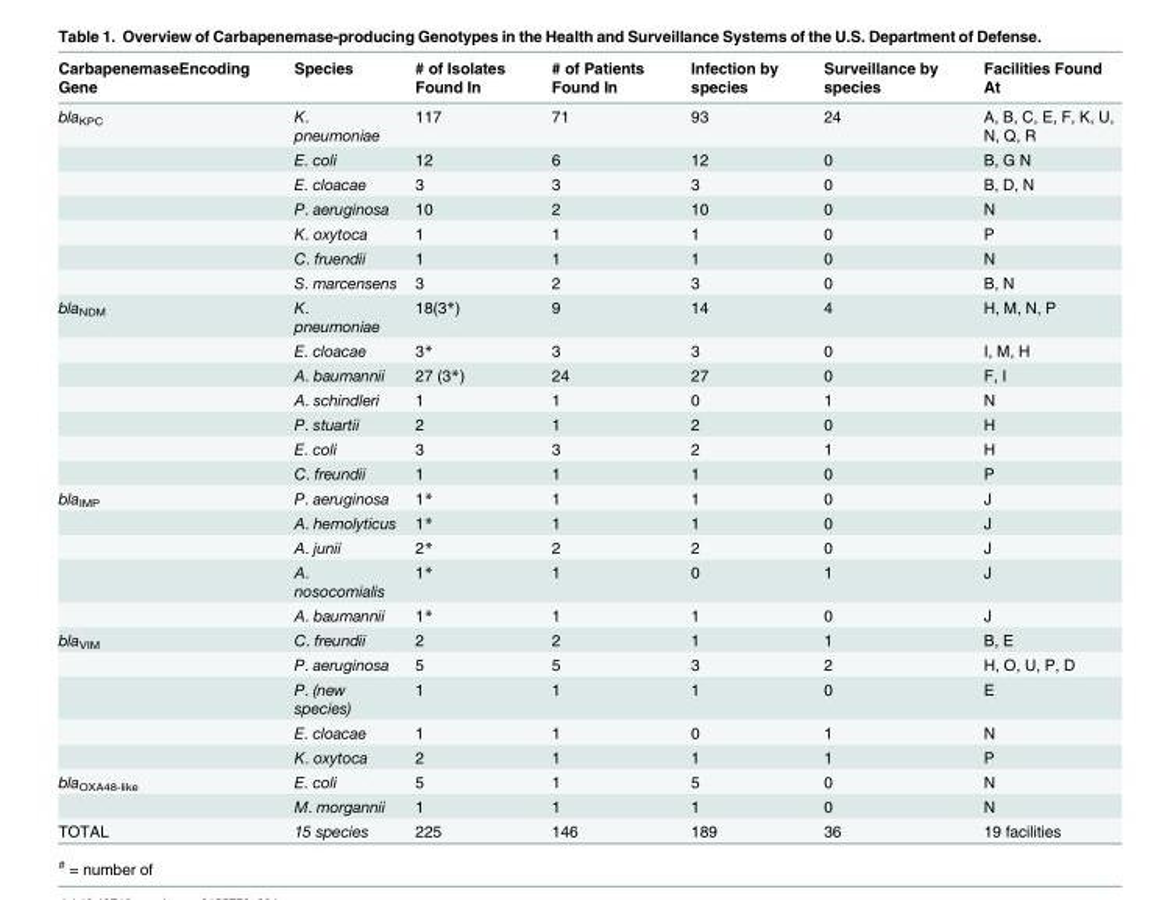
<table><thead><tr><td>CarbapenemaseEncoding Gene</td><td>Species</td><td># of Isolates Found In</td><td># of Patients Found In</td><td>Infection by species</td><td>Surveillance by species</td><td>Facilities Found At</td></tr></thead><tbody><tr><td rowspan="7">bla<sub>KPC</sub></td><td>K. pneumoniae</td><td>117</td><td>71</td><td>93</td><td>24</td><td>A, B, C, E, F, K, U, N, Q, R</td></tr><tr><td>E. coli</td><td>12</td><td>6</td><td>12</td><td>0</td><td>B, G N</td></tr><tr><td>E. cloacae</td><td>3</td><td>3</td><td>3</td><td>0</td><td>B, D, N</td></tr><tr><td>P. aeruginosa</td><td>10</td><td>2</td><td>10</td><td>0</td><td>N</td></tr><tr><td>K. oxytoca</td><td>1</td><td>1</td><td>1</td><td>0</td><td>P</td></tr><tr><td>C. fruendii</td><td>1</td><td>1</td><td>1</td><td>0</td><td>N</td></tr><tr><td>S. marcensens</td><td>3</td><td>2</td><td>3</td><td>0</td><td>B, N</td></tr><tr><td rowspan="7">bla<sub>NDM</sub></td><td>K. pneumoniae</td><td>18(3*)</td><td>9</td><td>14</td><td>4</td><td>H, M, N, P</td></tr><tr><td>E. cloacae</td><td>3*</td><td>3</td><td>3</td><td>0</td><td>I, M, H</td></tr><tr><td>A. baumannii</td><td>27 (3*)</td><td>24</td><td>27</td><td>0</td><td>F, I</td></tr><tr><td>A. schindleri</td><td>1</td><td>1</td><td>0</td><td>1</td><td>N</td></tr><tr><td>P. stuartii</td><td>2</td><td>1</td><td>2</td><td>0</td><td>H</td></tr><tr><td>E. coli</td><td>3</td><td>3</td><td>2</td><td>1</td><td>H</td></tr><tr><td>C. freundii</td><td>1</td><td>1</td><td>1</td><td>0</td><td>P</td></tr><tr><td rowspan="5">bla<sub>IMP</sub></td><td>P. aeruginosa</td><td>1*</td><td>1</td><td>1</td><td>0</td><td>J</td></tr><tr><td>A. hemolyticus</td><td>1*</td><td>1</td><td>1</td><td>0</td><td>J</td></tr><tr><td>A. junii</td><td>2*</td><td>2</td><td>2</td><td>0</td><td>J</td></tr><tr><td>A. nosocomialis</td><td>1*</td><td>1</td><td>0</td><td>1</td><td>J</td></tr><tr><td>A. baumannii</td><td>1*</td><td>1</td><td>1</td><td>0</td><td>J</td></tr><tr><td rowspan="5">bla<sub>VIM</sub></td><td>C. freundii</td><td>2</td><td>2</td><td>1</td><td>1</td><td>B, E</td></tr><tr><td>P. aeruginosa</td><td>5</td><td>5</td><td>3</td><td>2</td><td>H, O, U, P, D</td></tr><tr><td>P. (new species)</td><td>1</td><td>1</td><td>1</td><td>0</td><td>E</td></tr><tr><td>E. cloacae</td><td>1</td><td>1</td><td>0</td><td>1</td><td>N</td></tr><tr><td>K. oxytoca</td><td>2</td><td>1</td><td>1</td><td>1</td><td>P</td></tr><tr><td rowspan="2">bla<sub>OXA48-like</sub></td><td>E. coli</td><td>5</td><td>1</td><td>5</td><td>0</td><td>N</td></tr><tr><td>M. morgannii</td><td>1</td><td>1</td><td>1</td><td>0</td><td>N</td></tr><tr><td>TOTAL</td><td>15 species</td><td>225</td><td>146</td><td>189</td><td>36</td><td>19 facilities</td></tr></tbody></table>